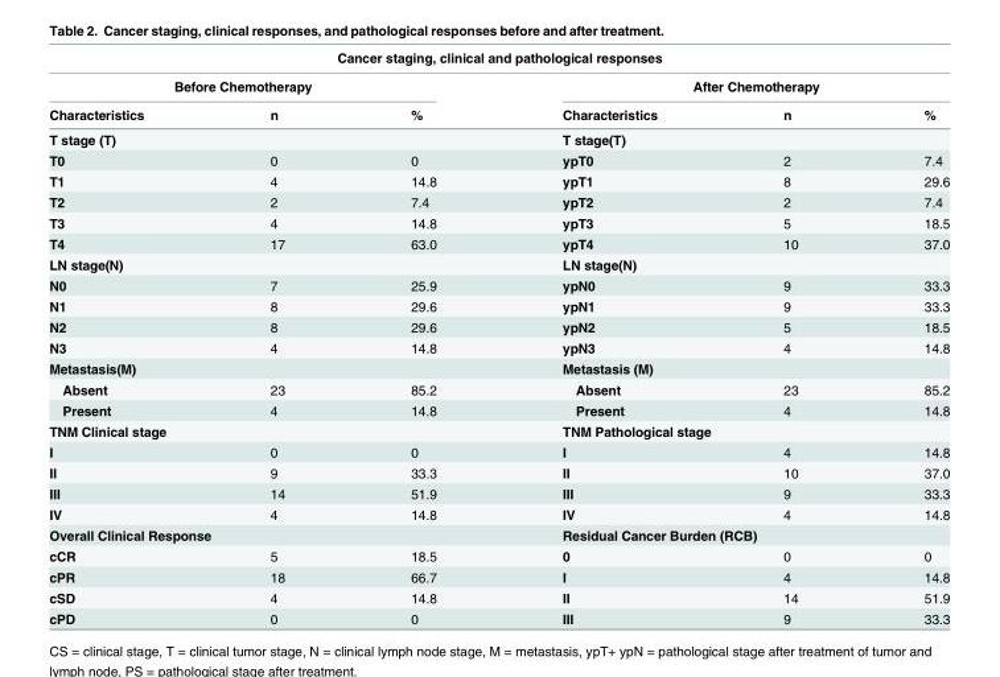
<table><thead><tr><td colspan="6">Cancer staging, clinical and pathological responses</td></tr><tr><td colspan="3">Before Chemotherapy</td><td colspan="3">After Chemotherapy</td></tr><tr><td>Characteristics</td><td>n</td><td>%</td><td>Characteristics</td><td>n</td><td>%</td></tr></thead><tbody><tr><td colspan="3">T stage (T)</td><td colspan="3">T stage(T)</td></tr><tr><td>T0</td><td>0</td><td>0</td><td>ypT0</td><td>2</td><td>7.4</td></tr><tr><td>T1</td><td>4</td><td>14.8</td><td>ypT1</td><td>8</td><td>29.6</td></tr><tr><td>T2</td><td>2</td><td>7.4</td><td>ypT2</td><td>2</td><td>7.4</td></tr><tr><td>T3</td><td>4</td><td>14.8</td><td>ypT3</td><td>5</td><td>18.5</td></tr><tr><td>T4</td><td>17</td><td>63.0</td><td>ypT4</td><td>10</td><td>37.0</td></tr><tr><td colspan="3">LN stage(N)</td><td colspan="3">LN stage(N)</td></tr><tr><td>N0</td><td>7</td><td>25.9</td><td>ypN0</td><td>9</td><td>33.3</td></tr><tr><td>N1</td><td>8</td><td>29.6</td><td>ypN1</td><td>9</td><td>33.3</td></tr><tr><td>N2</td><td>8</td><td>29.6</td><td>ypN2</td><td>5</td><td>18.5</td></tr><tr><td>N3</td><td>4</td><td>14.8</td><td>ypN3</td><td>4</td><td>14.8</td></tr><tr><td colspan="3">Metastasis(M)</td><td colspan="3">Metastasis (M)</td></tr><tr><td>Absent</td><td>23</td><td>85.2</td><td>Absent</td><td>23</td><td>85.2</td></tr><tr><td>Present</td><td>4</td><td>14.8</td><td>Present</td><td>4</td><td>14.8</td></tr><tr><td colspan="3">TNM Clinical stage</td><td colspan="3">TNM Pathological stage</td></tr><tr><td>I</td><td>0</td><td>0</td><td>I</td><td>4</td><td>14.8</td></tr><tr><td>II</td><td>9</td><td>33.3</td><td>II</td><td>10</td><td>37.0</td></tr><tr><td>III</td><td>14</td><td>51.9</td><td>III</td><td>9</td><td>33.3</td></tr><tr><td>IV</td><td>4</td><td>14.8</td><td>IV</td><td>4</td><td>14.8</td></tr><tr><td colspan="3">Overall Clinical Response</td><td colspan="3">Residual Cancer Burden (RCB)</td></tr><tr><td>cCR</td><td>5</td><td>18.5</td><td>0</td><td>0</td><td>0</td></tr><tr><td>cPR</td><td>18</td><td>66.7</td><td>I</td><td>4</td><td>14.8</td></tr><tr><td>cSD</td><td>4</td><td>14.8</td><td>II</td><td>14</td><td>51.9</td></tr><tr><td>cPD</td><td>0</td><td>0</td><td>III</td><td>9</td><td>33.3</td></tr></tbody></table>